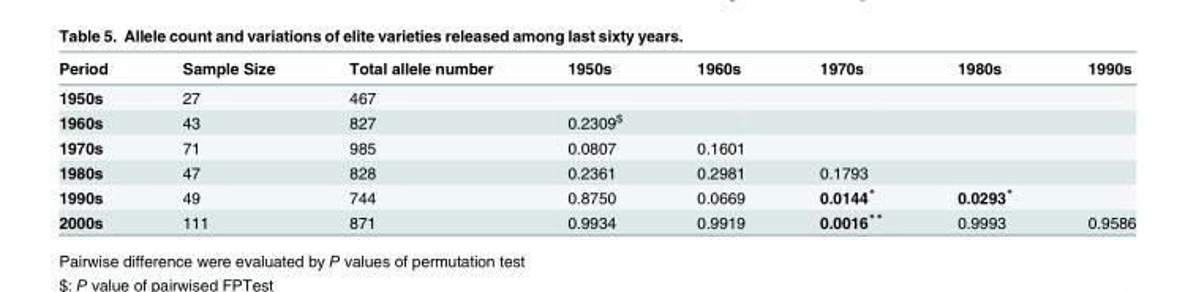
<table><thead><tr><td>Period</td><td>Sample Size</td><td>Total allele number</td><td>1950s</td><td>1960s</td><td>1970s</td><td>1980s</td><td>1990s</td></tr></thead><tbody><tr><td>1950s</td><td>27</td><td>467</td><td></td><td></td><td></td><td></td><td></td></tr><tr><td>1960s</td><td>43</td><td>827</td><td>0.2309<sup>$</sup></td><td></td><td></td><td></td><td></td></tr><tr><td>1970s</td><td>71</td><td>985</td><td>0.0807</td><td>0.1601</td><td></td><td></td><td></td></tr><tr><td>1980s</td><td>47</td><td>828</td><td>0.2361</td><td>0.2981</td><td>0.1793</td><td></td><td></td></tr><tr><td>1990s</td><td>49</td><td>744</td><td>0.8750</td><td>0.0669</td><td>0.0144*</td><td>0.0293*</td><td></td></tr><tr><td>2000s</td><td>111</td><td>871</td><td>0.9934</td><td>0.9919</td><td>0.0016**</td><td>0.9993</td><td>0.9586</td></tr></tbody></table>